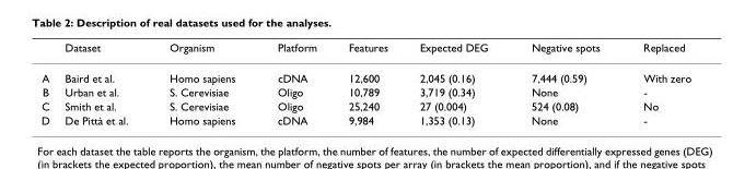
<table><thead><tr><td></td><td>Dataset</td><td>Organism</td><td>Platform</td><td>Features</td><td>Expected DEG</td><td>Negative spots</td><td>Replaced</td></tr></thead><tbody><tr><td>A</td><td>Baird et al.</td><td>Homo sapiens</td><td>cDNA</td><td>12,600</td><td>2,045 (0.16)</td><td>7,444 (0.59)</td><td>With zero</td></tr><tr><td>B</td><td>Urban et al.</td><td>S. Cerevisiae</td><td>Oligo</td><td>10,789</td><td>3,719 (0.34)</td><td>None</td><td>-</td></tr><tr><td>C</td><td>Smith et al.</td><td>S. Cerevisiae</td><td>Oligo</td><td>25,240</td><td>27 (0.004)</td><td>524 (0.08)</td><td>No</td></tr><tr><td>D</td><td>De Pittà et al.</td><td>Homo sapiens</td><td>cDNA</td><td>9,984</td><td>1,353 (0.13)</td><td>None</td><td>-</td></tr></tbody></table>